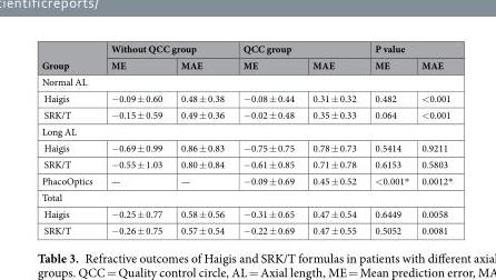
<table><thead><tr><td rowspan="2">Group</td><td colspan="2">Without QCC group</td><td colspan="2">QCC group</td><td colspan="2">P value</td></tr><tr><td>ME</td><td>MAE</td><td>ME</td><td>MAE</td><td>ME</td><td>MAE</td></tr></thead><tbody><tr><td colspan="7">Normal AL</td></tr><tr><td>Haigis</td><td>−0.09 ± 0.60</td><td>0.48 ± 0.38</td><td>−0.08 ± 0.44</td><td>0.31 ± 0.32</td><td>0.482</td><td>&lt;0.001</td></tr><tr><td>SRK/T</td><td>−0.15 ± 0.59</td><td>0.49 ± 0.36</td><td>−0.02 ± 0.48</td><td>0.35 ± 0.33</td><td>0.064</td><td>&lt;0.001</td></tr><tr><td colspan="7">Long AL</td></tr><tr><td>Haigis</td><td>−0.69 ± 0.99</td><td>0.86 ± 0.83</td><td>−0.75 ± 0.75</td><td>0.78 ± 0.73</td><td>0.5414</td><td>0.9211</td></tr><tr><td>SRK/T</td><td>−0.55 ± 1.03</td><td>0.80 ± 0.84</td><td>−0.61 ± 0.85</td><td>0.71 ± 0.78</td><td>0.6153</td><td>0.5803</td></tr><tr><td>PhacoOptics</td><td>—</td><td>—</td><td>−0.09 ± 0.69</td><td>0.45 ± 0.52</td><td>&lt;0.001*</td><td>0.0012*</td></tr><tr><td colspan="7">Total</td></tr><tr><td>Haigis</td><td>−0.25 ± 0.77</td><td>0.58 ± 0.56</td><td>−0.31 ± 0.65</td><td>0.47 ± 0.54</td><td>0.6449</td><td>0.0058</td></tr><tr><td>SRK/T</td><td>−0.26 ± 0.75</td><td>0.57 ± 0.54</td><td>−0.22 ± 0.69</td><td>0.47 ± 0.55</td><td>0.5052</td><td>0.0081</td></tr></tbody></table>